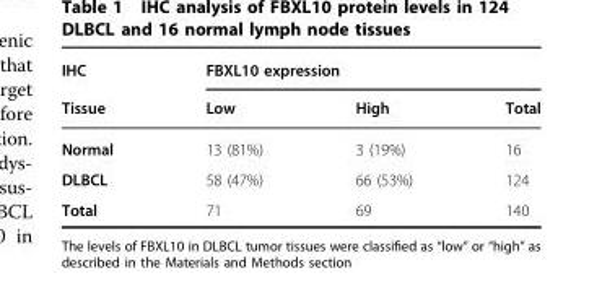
<table><thead><tr><td rowspan="2">IHC Tissue</td><td colspan="3">FBXL10 expression</td></tr><tr><td>Low</td><td>High</td><td>Total</td></tr></thead><tbody><tr><td>Normal</td><td>13 (81%)</td><td>3 (19%)</td><td>16</td></tr><tr><td>DLBCL</td><td>58 (47%)</td><td>66 (53%)</td><td>124</td></tr><tr><td>Total</td><td>71</td><td>69</td><td>140</td></tr></tbody></table>